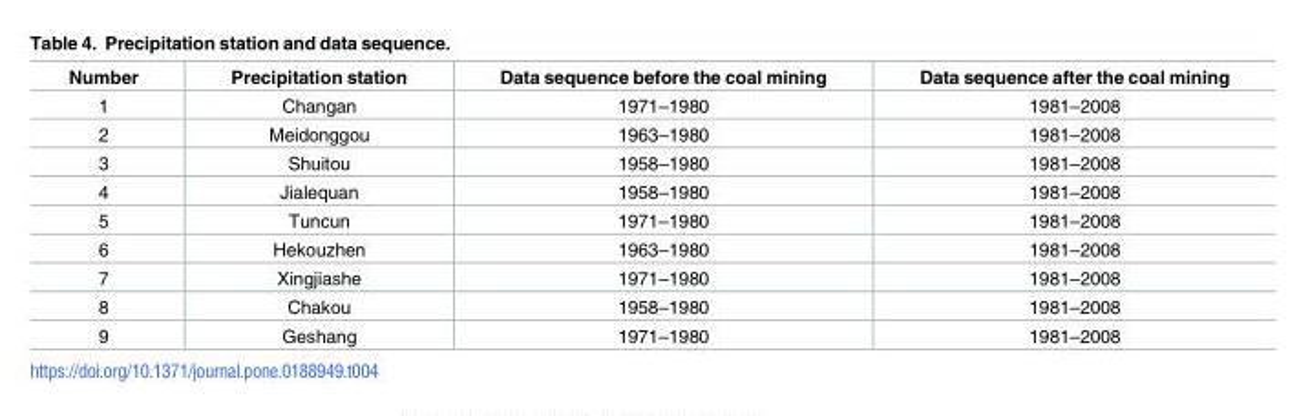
<table><thead><tr><td>Number</td><td>Precipitation station</td><td>Data sequence before the coal mining</td><td>Data sequence after the coal mining</td></tr></thead><tbody><tr><td>1</td><td>Changan</td><td>1971–1980</td><td>1981–2008</td></tr><tr><td>2</td><td>Meidonggou</td><td>1963–1980</td><td>1981–2008</td></tr><tr><td>3</td><td>Shuitou</td><td>1958–1980</td><td>1981–2008</td></tr><tr><td>4</td><td>Jialequan</td><td>1958–1980</td><td>1981–2008</td></tr><tr><td>5</td><td>Tuncun</td><td>1971–1980</td><td>1981–2008</td></tr><tr><td>6</td><td>Hekouzhen</td><td>1963–1980</td><td>1981–2008</td></tr><tr><td>7</td><td>Xingjiashe</td><td>1971–1980</td><td>1981–2008</td></tr><tr><td>8</td><td>Chakou</td><td>1958–1980</td><td>1981–2008</td></tr><tr><td>9</td><td>Geshang</td><td>1971–1980</td><td>1981–2008</td></tr></tbody></table>